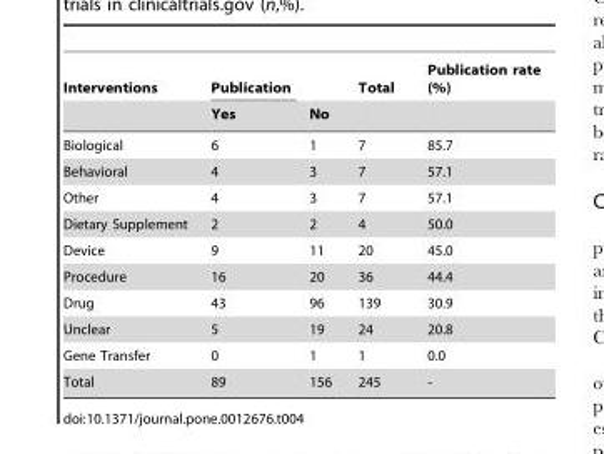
<table><thead><tr><td rowspan="2">Interventions</td><td rowspan="2">Publication Yes</td><td rowspan="2">No</td><td rowspan="2">Total</td><td rowspan="2">Publication rate (%)</td></tr><tr></tr></thead><tbody><tr><td>Biological</td><td>6</td><td>1</td><td>7</td><td>85.7</td></tr><tr><td>Behavioral</td><td>4</td><td>3</td><td>7</td><td>57.1</td></tr><tr><td>Other</td><td>4</td><td>3</td><td>7</td><td>57.1</td></tr><tr><td>Dietary Supplement</td><td>2</td><td>2</td><td>4</td><td>50.0</td></tr><tr><td>Device</td><td>9</td><td>11</td><td>20</td><td>45.0</td></tr><tr><td>Procedure</td><td>16</td><td>20</td><td>36</td><td>44.4</td></tr><tr><td>Drug</td><td>43</td><td>96</td><td>139</td><td>30.9</td></tr><tr><td>Unclear</td><td>5</td><td>19</td><td>24</td><td>20.8</td></tr><tr><td>Gene Transfer</td><td>0</td><td>1</td><td>1</td><td>0.0</td></tr><tr><td>Total</td><td>89</td><td>156</td><td>245</td><td>-</td></tr></tbody></table>